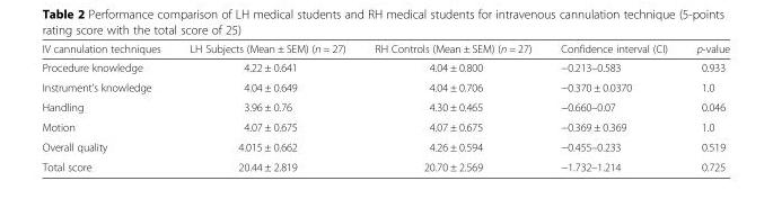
<table><thead><tr><td>IV cannulation techniques</td><td>LH Subjects (Mean ± SEM) (n = 27)</td><td>RH Controls (Mean ± SEM) (n = 27)</td><td>Confidence interval (CI)</td><td>p-value</td></tr></thead><tbody><tr><td>Procedure knowledge</td><td>4.22 ± 0.641</td><td>4.04 ± 0.800</td><td>−0.213–0.583</td><td>0.933</td></tr><tr><td>Instrument’s knowledge</td><td>4.04 ± 0.649</td><td>4.04 ± 0.706</td><td>−0.370 ± 0.0370</td><td>1.0</td></tr><tr><td>Handling</td><td>3.96 ± 0.76</td><td>4.30 ± 0.465</td><td>−0.660–0.07</td><td>0.046</td></tr><tr><td>Motion</td><td>4.07 ± 0.675</td><td>4.07 ± 0.675</td><td>−0.369 ± 0.369</td><td>1.0</td></tr><tr><td>Overall quality</td><td>4.015 ± 0.662</td><td>4.26 ± 0.594</td><td>−0.455–0.233</td><td>0.519</td></tr><tr><td>Total score</td><td>20.44 ± 2.819</td><td>20.70 ± 2.569</td><td>−1.732–1.214</td><td>0.725</td></tr></tbody></table>